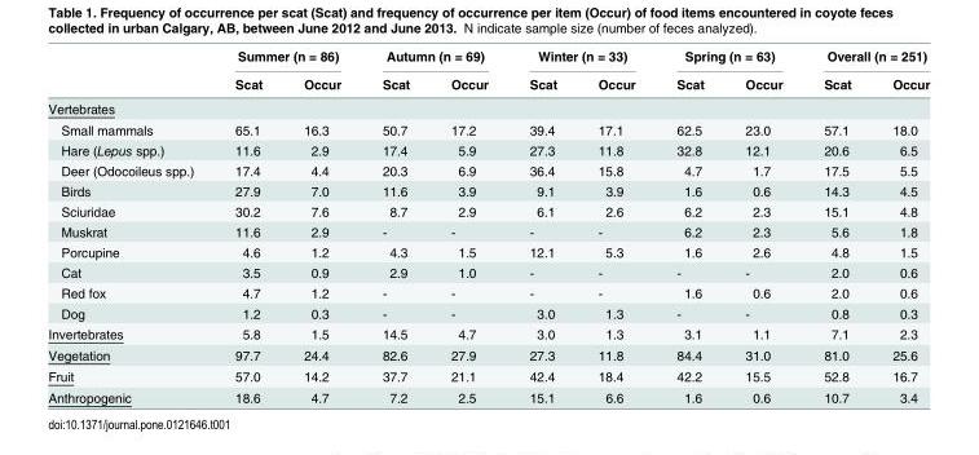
<table><thead><tr><td rowspan="2"></td><td colspan="2">Summer (n = 86)</td><td colspan="2">Autumn (n = 69)</td><td colspan="2">Winter (n = 33)</td><td colspan="2">Spring (n = 63)</td><td colspan="2">Overall (n = 251)</td></tr><tr><td>Scat</td><td>Occur</td><td>Scat</td><td>Occur</td><td>Scat</td><td>Occur</td><td>Scat</td><td>Occur</td><td>Scat</td><td>Occur</td></tr></thead><tbody><tr><td colspan="11">Vertebrates</td></tr><tr><td>Small mammals</td><td>65.1</td><td>16.3</td><td>50.7</td><td>17.2</td><td>39.4</td><td>17.1</td><td>62.5</td><td>23.0</td><td>57.1</td><td>18.0</td></tr><tr><td>Hare (Lepus spp.)</td><td>11.6</td><td>2.9</td><td>17.4</td><td>5.9</td><td>27.3</td><td>11.8</td><td>32.8</td><td>12.1</td><td>20.6</td><td>6.5</td></tr><tr><td>Deer (Odocoileus spp.)</td><td>17.4</td><td>4.4</td><td>20.3</td><td>6.9</td><td>36.4</td><td>15.8</td><td>4.7</td><td>1.7</td><td>17.5</td><td>5.5</td></tr><tr><td>Birds</td><td>27.9</td><td>7.0</td><td>11.6</td><td>3.9</td><td>9.1</td><td>3.9</td><td>1.6</td><td>0.6</td><td>14.3</td><td>4.5</td></tr><tr><td>Sciuridae</td><td>30.2</td><td>7.6</td><td>8.7</td><td>2.9</td><td>6.1</td><td>2.6</td><td>6.2</td><td>2.3</td><td>15.1</td><td>4.8</td></tr><tr><td>Muskrat</td><td>11.6</td><td>2.9</td><td>-</td><td>-</td><td>-</td><td>-</td><td>6.2</td><td>2.3</td><td>5.6</td><td>1.8</td></tr><tr><td>Porcupine</td><td>4.6</td><td>1.2</td><td>4.3</td><td>1.5</td><td>12.1</td><td>5.3</td><td>1.6</td><td>2.6</td><td>4.8</td><td>1.5</td></tr><tr><td>Cat</td><td>3.5</td><td>0.9</td><td>2.9</td><td>1.0</td><td>-</td><td>-</td><td>-</td><td>-</td><td>2.0</td><td>0.6</td></tr><tr><td>Red fox</td><td>4.7</td><td>1.2</td><td>-</td><td>-</td><td>-</td><td>-</td><td>1.6</td><td>0.6</td><td>2.0</td><td>0.6</td></tr><tr><td>Dog</td><td>1.2</td><td>0.3</td><td>-</td><td>-</td><td>3.0</td><td>1.3</td><td>-</td><td>-</td><td>0.8</td><td>0.3</td></tr><tr><td>Invertebrates</td><td>5.8</td><td>1.5</td><td>14.5</td><td>4.7</td><td>3.0</td><td>1.3</td><td>3.1</td><td>1.1</td><td>7.1</td><td>2.3</td></tr><tr><td>Vegetation</td><td>97.7</td><td>24.4</td><td>82.6</td><td>27.9</td><td>27.3</td><td>11.8</td><td>84.4</td><td>31.0</td><td>81.0</td><td>25.6</td></tr><tr><td>Fruit</td><td>57.0</td><td>14.2</td><td>37.7</td><td>21.1</td><td>42.4</td><td>18.4</td><td>42.2</td><td>15.5</td><td>52.8</td><td>16.7</td></tr><tr><td>Anthropogenic</td><td>18.6</td><td>4.7</td><td>7.2</td><td>2.5</td><td>15.1</td><td>6.6</td><td>1.6</td><td>0.6</td><td>10.7</td><td>3.4</td></tr></tbody></table>